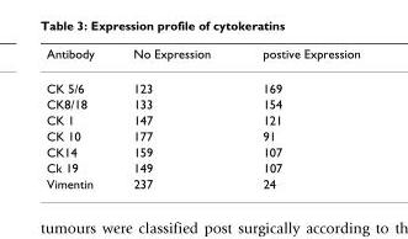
<table><thead><tr><td>Antibody</td><td>No Expression</td><td>postive Expression</td></tr></thead><tbody><tr><td>CK 5/6</td><td>123</td><td>169</td></tr><tr><td>CK8/18</td><td>133</td><td>154</td></tr><tr><td>CK 1</td><td>147</td><td>121</td></tr><tr><td>CK 10</td><td>177</td><td>91</td></tr><tr><td>CK14</td><td>159</td><td>107</td></tr><tr><td>Ck 19</td><td>149</td><td>107</td></tr><tr><td>Vimentin</td><td>237</td><td>24</td></tr></tbody></table>